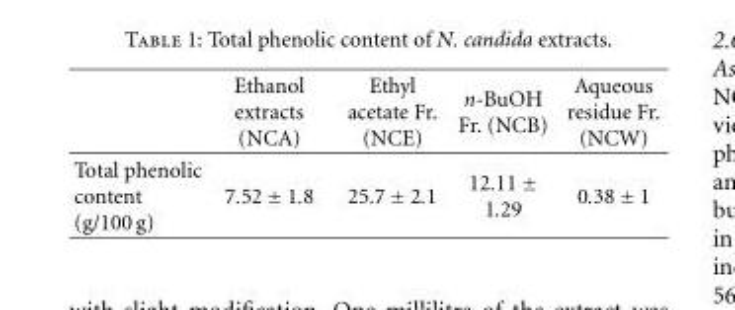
<table><thead><tr><td></td><td>Ethanol extracts (NCA)</td><td>Ethyl acetate Fr. (NCE)</td><td>n-BuOH Fr. (NCB)</td><td>Aqueous residue Fr. (NCW)</td></tr></thead><tbody><tr><td>Total phenolic content (g/100 g)</td><td>7.52 ± 1.8</td><td>25.7 ± 2.1</td><td>12.11 ± 1.29</td><td>0.38 ± 1</td></tr></tbody></table>